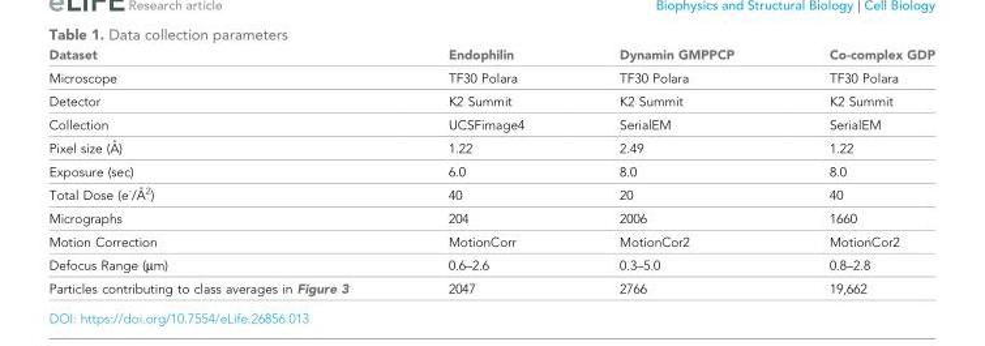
<table><thead><tr><td>Dataset</td><td>Endophilin</td><td>Dynamin GMPPCP</td><td>Co-complex GDP</td></tr></thead><tbody><tr><td>Microscope</td><td>TF30 Polara</td><td>TF30 Polara</td><td>TF30 Polara</td></tr><tr><td>Detector</td><td>K2 Summit</td><td>K2 Summit</td><td>K2 Summit</td></tr><tr><td>Collection</td><td>UCSFimage4</td><td>SerialEM</td><td>SerialEM</td></tr><tr><td>Pixel size (A˚ )</td><td>1.22</td><td>2.49</td><td>1.22</td></tr><tr><td>Exposure (sec)</td><td>6.0</td><td>8.0</td><td>8.0</td></tr><tr><td>Total Dose (e-/A˚ 2)</td><td>40</td><td>20</td><td>40</td></tr><tr><td>Micrographs</td><td>204</td><td>2006</td><td>1660</td></tr><tr><td>Motion Correction</td><td>MotionCorr</td><td>MotionCor2</td><td>MotionCor2</td></tr><tr><td>Defocus Range (μm)</td><td>0.6–2.6</td><td>0.3–5.0</td><td>0.8–2.8</td></tr><tr><td>Particles contributing to class averages in Figure 3</td><td>2047</td><td>2766</td><td>19,662</td></tr></tbody></table>